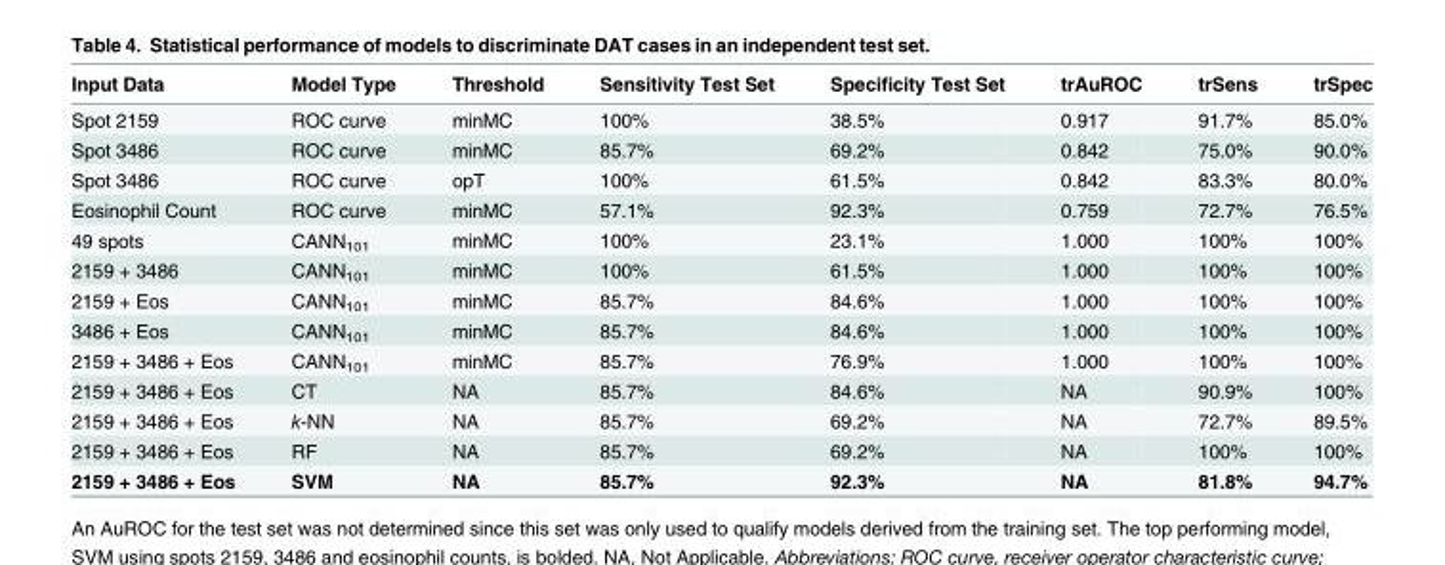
<table><thead><tr><td>Input Data</td><td>Model Type</td><td>Threshold</td><td>Sensitivity Test Set</td><td>Specificity Test Set</td><td>trAuROC</td><td>trSens</td><td>trSpec</td></tr></thead><tbody><tr><td>Spot 2159</td><td>ROC curve</td><td>minMC</td><td>100%</td><td>38.5%</td><td>0.917</td><td>91.7%</td><td>85.0%</td></tr><tr><td>Spot 3486</td><td>ROC curve</td><td>minMC</td><td>85.7%</td><td>69.2%</td><td>0.842</td><td>75.0%</td><td>90.0%</td></tr><tr><td>Spot 3486</td><td>ROC curve</td><td>opT</td><td>100%</td><td>61.5%</td><td>0.842</td><td>83.3%</td><td>80.0%</td></tr><tr><td>Eosinophil Count</td><td>ROC curve</td><td>minMC</td><td>57.1%</td><td>92.3%</td><td>0.759</td><td>72.7%</td><td>76.5%</td></tr><tr><td>49 spots</td><td>CANN<sub>101</sub></td><td>minMC</td><td>100%</td><td>23.1%</td><td>1.000</td><td>100%</td><td>100%</td></tr><tr><td>2159 + 3486</td><td>CANN<sub>101</sub></td><td>minMC</td><td>100%</td><td>61.5%</td><td>1.000</td><td>100%</td><td>100%</td></tr><tr><td>2159 + Eos</td><td>CANN<sub>101</sub></td><td>minMC</td><td>85.7%</td><td>84.6%</td><td>1.000</td><td>100%</td><td>100%</td></tr><tr><td>3486 + Eos</td><td>CANN<sub>101</sub></td><td>minMC</td><td>85.7%</td><td>84.6%</td><td>1.000</td><td>100%</td><td>100%</td></tr><tr><td>2159 + 3486 + Eos</td><td>CANN<sub>101</sub></td><td>minMC</td><td>85.7%</td><td>76.9%</td><td>1.000</td><td>100%</td><td>100%</td></tr><tr><td>2159 + 3486 + Eos</td><td>CT</td><td>NA</td><td>85.7%</td><td>84.6%</td><td>NA</td><td>90.9%</td><td>100%</td></tr><tr><td>2159 + 3486 + Eos</td><td>k-NN</td><td>NA</td><td>85.7%</td><td>69.2%</td><td>NA</td><td>72.7%</td><td>89.5%</td></tr><tr><td>2159 + 3486 + Eos</td><td>RF</td><td>NA</td><td>85.7%</td><td>69.2%</td><td>NA</td><td>100%</td><td>100%</td></tr><tr><td>2159 + 3486 + Eos</td><td>SVM</td><td>NA</td><td>85.7%</td><td>92.3%</td><td>NA</td><td>81.8%</td><td>94.7%</td></tr></tbody></table>